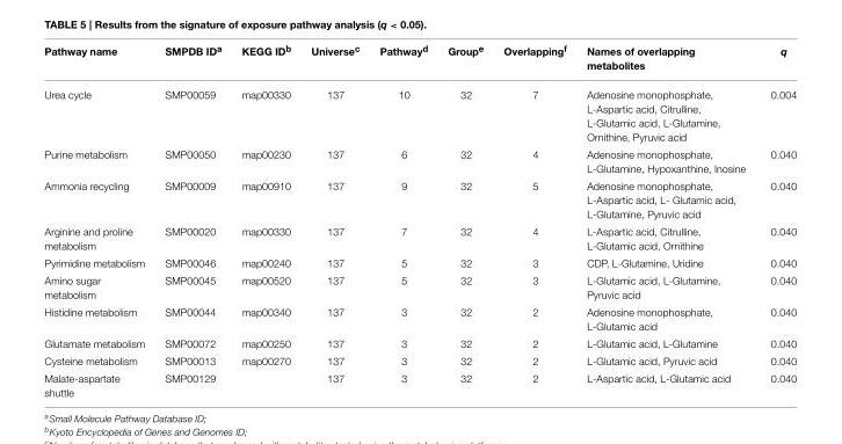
<table><thead><tr><td>Pathway name</td><td>SMPDB ID<sup>a</sup></td><td>KEGG ID<sup>b</sup></td><td>Universe<sup>c</sup></td><td>Pathway<sup>d</sup></td><td>Group<sup>e</sup></td><td>Overlapping<sup>f</sup></td><td>Names of overlapping metabolites</td><td>q</td></tr></thead><tbody><tr><td>Urea cycle</td><td>SMP00059</td><td>map00330</td><td>137</td><td>10</td><td>32</td><td>7</td><td>Adenosine monophosphate, L-Aspartic acid, Citrulline, L-Glutamic acid, L-Glutamine, Ornithine, Pyruvic acid</td><td>0.004</td></tr><tr><td>Purine metabolism</td><td>SMP00050</td><td>map00230</td><td>137</td><td>6</td><td>32</td><td>4</td><td>Adenosine monophosphate, L-Glutamine, Hypoxanthine, Inosine</td><td>0.040</td></tr><tr><td>Ammonia recycling</td><td>SMP00009</td><td>map00910</td><td>137</td><td>9</td><td>32</td><td>5</td><td>Adenosine monophosphate, L-Aspartic acid, L- Glutamic acid, L-Glutamine, Pyruvic acid</td><td>0.040</td></tr><tr><td>Arginine and proline metabolism</td><td>SMP00020</td><td>map00330</td><td>137</td><td>7</td><td>32</td><td>4</td><td>L-Aspartic acid, Citrulline, L-Glutamic acid, Ornithine</td><td>0.040</td></tr><tr><td>Pyrimidine metabolism</td><td>SMP00046</td><td>map00240</td><td>137</td><td>5</td><td>32</td><td>3</td><td>CDP, L-Glutamine, Uridine</td><td>0.040</td></tr><tr><td>Amino sugar metabolism</td><td>SMP00045</td><td>map00520</td><td>137</td><td>5</td><td>32</td><td>3</td><td>L-Glutamic acid, L-Glutamine, Pyruvic acid</td><td>0.040</td></tr><tr><td>Histidine metabolism</td><td>SMP00044</td><td>map00340</td><td>137</td><td>3</td><td>32</td><td>2</td><td>Adenosine monophosphate, L-Glutamic acid</td><td>0.040</td></tr><tr><td>Glutamate metabolism</td><td>SMP00072</td><td>map00250</td><td>137</td><td>3</td><td>32</td><td>2</td><td>L-Glutamic acid, L-Glutamine</td><td>0.040</td></tr><tr><td>Cysteine metabolism</td><td>SMP00013</td><td>map00270</td><td>137</td><td>3</td><td>32</td><td>2</td><td>L-Glutamic acid, Pyruvic acid</td><td>0.040</td></tr><tr><td>Malate-aspartate shuttle</td><td>SMP00129</td><td></td><td>137</td><td>3</td><td>32</td><td>2</td><td>L-Aspartic acid, L-Glutamic acid</td><td>0.040</td></tr></tbody></table>